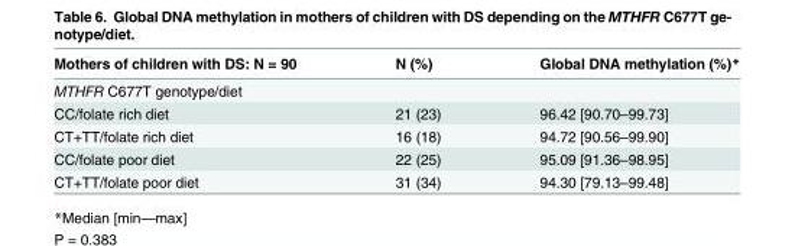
<table><thead><tr><td>Mothers of children with DS: N = 90</td><td>N (%)</td><td>Global DNA methylation (%)*</td></tr></thead><tbody><tr><td colspan="3">MTHFR C677T genotype/diet</td></tr><tr><td>CC/folate rich diet</td><td>21 (23)</td><td>96.42 [90.70–99.73]</td></tr><tr><td>CT+TT/folate rich diet</td><td>16 (18)</td><td>94.72 [90.56–99.90]</td></tr><tr><td>CC/folate poor diet</td><td>22 (25)</td><td>95.09 [91.36–98.95]</td></tr><tr><td>CT+TT/folate poor diet</td><td>31 (34)</td><td>94.30 [79.13–99.48]</td></tr></tbody></table>